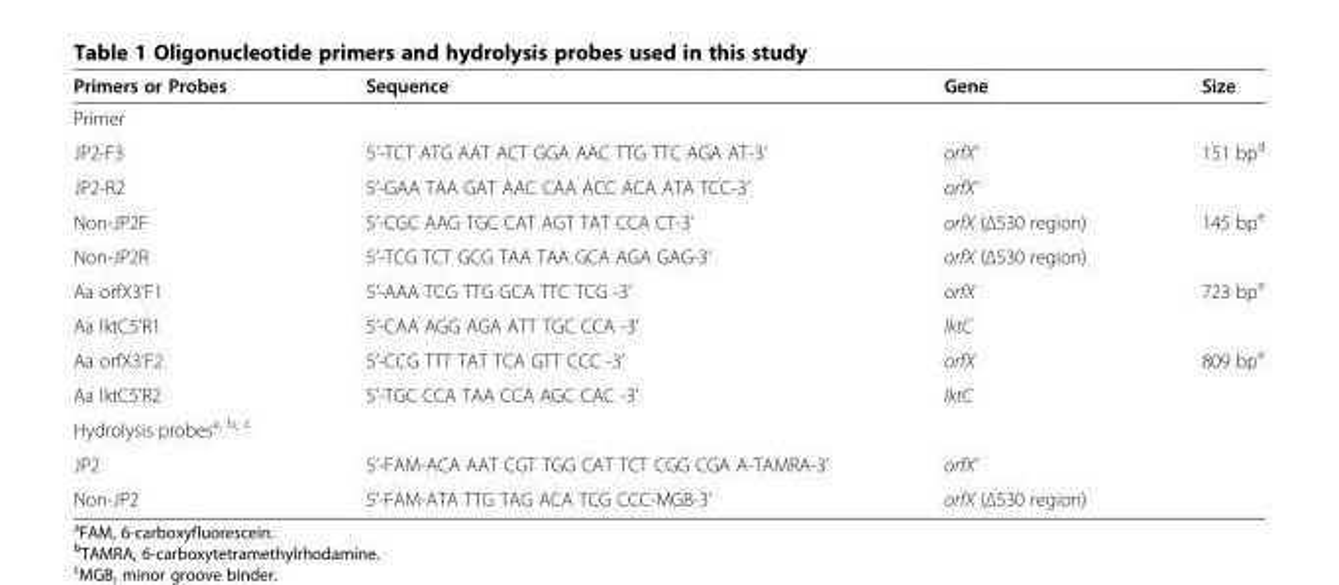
<table><thead><tr><td>Primers or Probes</td><td>Sequence</td><td>Gene</td><td>Size</td></tr></thead><tbody><tr><td colspan="4">Primer</td></tr><tr><td>JP2-F3</td><td>5’-TCT ATG AAT ACT GGA AAC TTG TTC AGA AT-3’</td><td>orfX’</td><td rowspan="2">151 bp<sup>d</sup></td></tr><tr><td>JP2-R2</td><td>5’-GAA TAA GAT AAC CAA ACC ACA ATA TCC-3’</td><td>orfX’</td></tr><tr><td>Non-JP2F</td><td>5’-CGC AAG TGC CAT AGT TAT CCA CT-3’</td><td>orfX (Δ530 region)</td><td rowspan="2">145 bp<sup>e</sup></td></tr><tr><td>Non-JP2R</td><td>5’-TCG TCT GCG TAA TAA GCA AGA GAG-3’</td><td>orfX (Δ530 region)</td></tr><tr><td>Aa orfX3’F1</td><td>5’-AAA TCG TTG GCA TTC TCG -3’</td><td>orfX</td><td rowspan="2">723 bp<sup>e</sup></td></tr><tr><td>Aa lktC5’R1</td><td>5’-CAA AGG AGA ATT TGC CCA -3’</td><td>lktC</td></tr><tr><td>Aa orfX3’F2</td><td>5’-CCG TTT TAT TCA GTT CCC -3’</td><td>orfX</td><td rowspan="2">809 bp<sup>e</sup></td></tr><tr><td>Aa lktC5’R2</td><td>5’-TGC CCA TAA CCA AGC CAC -3’</td><td>lktC</td></tr><tr><td colspan="4">Hydrolysis probes<sup>a, b, c</sup></td></tr><tr><td>JP2</td><td>5’-FAM-ACA AAT CGT TGG CAT TCT CGG CGA A-TAMRA-3’</td><td>orfX’</td><td></td></tr><tr><td>Non-JP2</td><td>5’-FAM-ATA TTG TAG ACA TCG CCC-MGB-3’</td><td>orfX (Δ530 region)</td><td></td></tr></tbody></table>